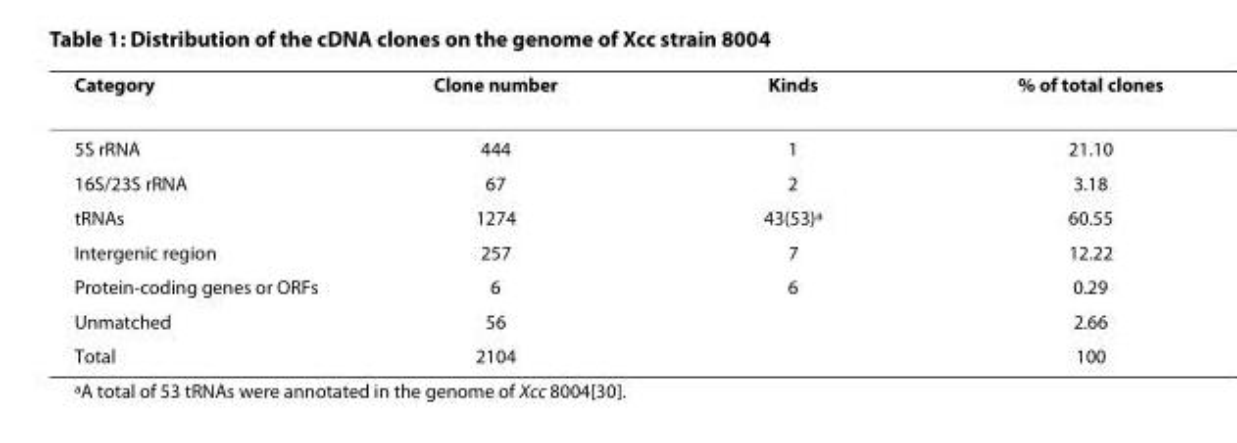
<table><thead><tr><td>Category</td><td>Clone number</td><td>Kinds</td><td>% of total clones</td></tr></thead><tbody><tr><td>5S rRNA</td><td>444</td><td>1</td><td>21.10</td></tr><tr><td>16S/23S rRNA</td><td>67</td><td>2</td><td>3.18</td></tr><tr><td>tRNAs</td><td>1274</td><td>43(53)<sup>a</sup></td><td>60.55</td></tr><tr><td>Intergenic region</td><td>257</td><td>7</td><td>12.22</td></tr><tr><td>Protein-coding genes or ORFs</td><td>6</td><td>6</td><td>0.29</td></tr><tr><td>Unmatched</td><td>56</td><td></td><td>2.66</td></tr><tr><td>Total</td><td>2104</td><td></td><td>100</td></tr></tbody></table>